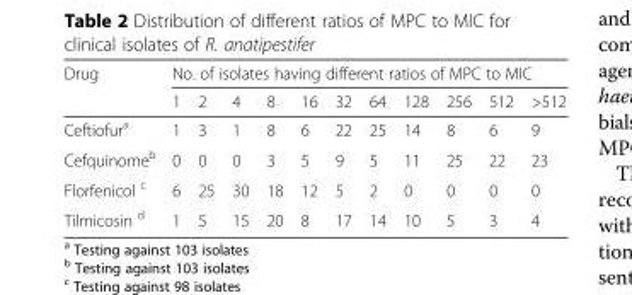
<table><thead><tr><td rowspan="2">Drug</td><td colspan="11">No. of isolates having different ratios of MPC to MIC</td></tr><tr><td>1</td><td>2</td><td>4</td><td>8</td><td>16</td><td>32</td><td>64</td><td>128</td><td>256</td><td>512</td><td>&gt;512</td></tr></thead><tbody><tr><td>Ceftiofur<sup>a</sup></td><td>1</td><td>3</td><td>1</td><td>8</td><td>6</td><td>22</td><td>25</td><td>14</td><td>8</td><td>6</td><td>9</td></tr><tr><td>Cefquinome<sup>b</sup></td><td>0</td><td>0</td><td>0</td><td>3</td><td>5</td><td>9</td><td>5</td><td>11</td><td>25</td><td>22</td><td>23</td></tr><tr><td>Florfenicol <sup>c</sup></td><td>6</td><td>25</td><td>30</td><td>18</td><td>12</td><td>5</td><td>2</td><td>0</td><td>0</td><td>0</td><td>0</td></tr><tr><td>Tilmicosin <sup>d</sup></td><td>1</td><td>5</td><td>15</td><td>20</td><td>8</td><td>17</td><td>14</td><td>10</td><td>5</td><td>3</td><td>4</td></tr></tbody></table>